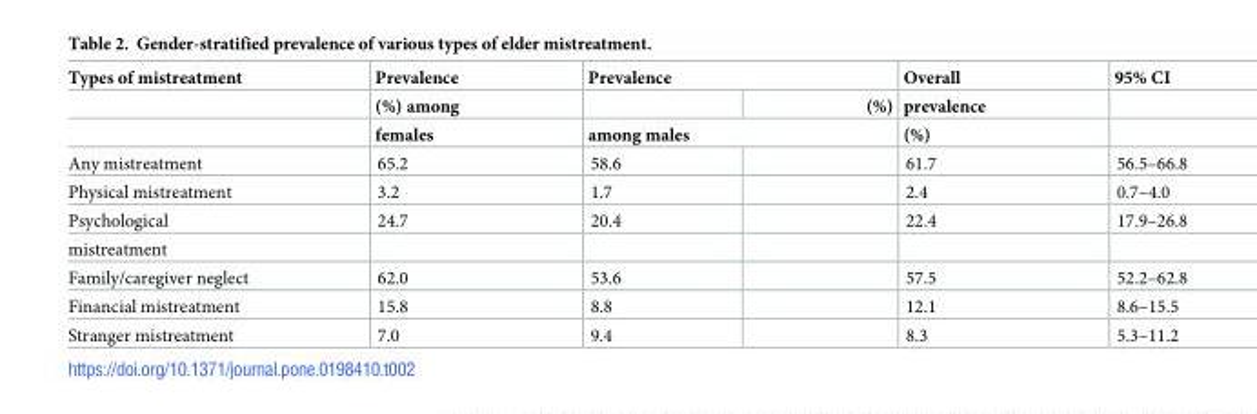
<table><thead><tr><td rowspan="3">Types of mistreatment</td><td rowspan="3">Prevalence (%) among females</td><td colspan="2">Prevalence</td><td rowspan="3">Overall prevalence (%)</td><td rowspan="3">95% CI</td></tr><tr><td></td><td>(%)</td></tr><tr><td colspan="2">among males</td></tr></thead><tbody><tr><td>Any mistreatment</td><td>65.2</td><td>58.6</td><td></td><td>61.7</td><td>56.5–66.8</td></tr><tr><td>Physical mistreatment</td><td>3.2</td><td>1.7</td><td></td><td>2.4</td><td>0.7–4.0</td></tr><tr><td>Psychological</td><td>24.7</td><td>20.4</td><td></td><td>22.4</td><td>17.9–26.8</td></tr><tr><td colspan="6">mistreatment</td></tr><tr><td>Family/caregiver neglect</td><td>62.0</td><td>53.6</td><td></td><td>57.5</td><td>52.2–62.8</td></tr><tr><td>Financial mistreatment</td><td>15.8</td><td>8.8</td><td></td><td>12.1</td><td>8.6–15.5</td></tr><tr><td>Stranger mistreatment</td><td>7.0</td><td>9.4</td><td></td><td>8.3</td><td>5.3–11.2</td></tr></tbody></table>